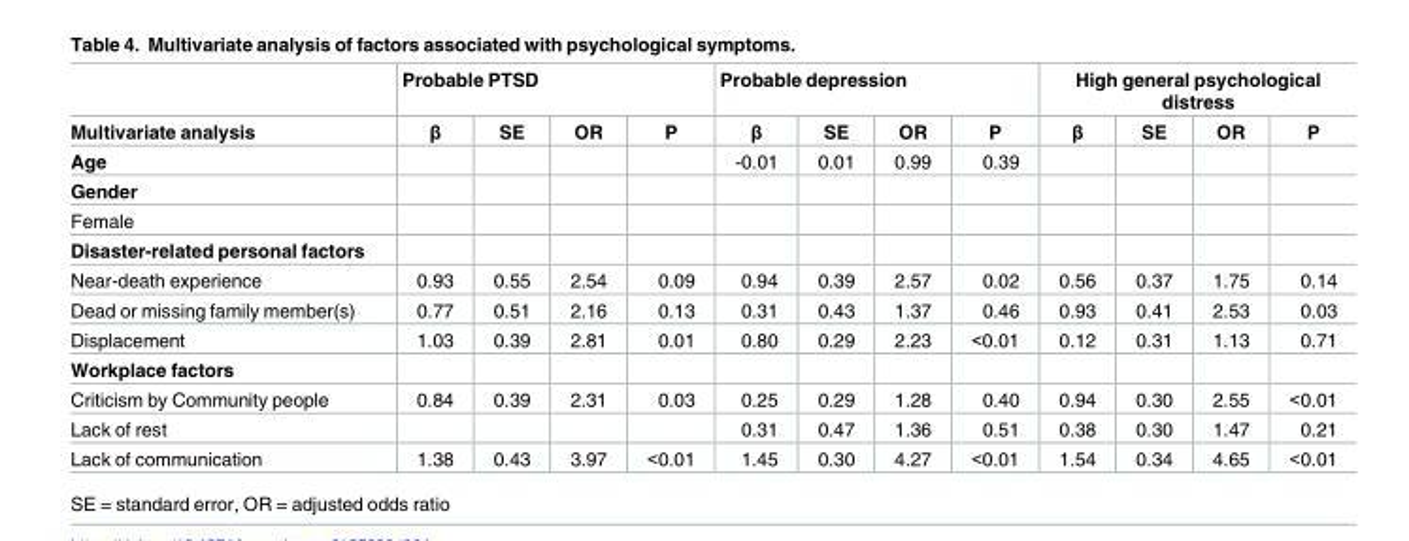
<table><thead><tr><td rowspan="2">Multivariate analysis</td><td colspan="4">Probable PTSD</td><td colspan="4">Probable depression</td><td colspan="4">High general psychological distress</td></tr><tr><td>β</td><td>SE</td><td>OR</td><td>P</td><td>β</td><td>SE</td><td>OR</td><td>P</td><td>β</td><td>SE</td><td>OR</td><td>P</td></tr></thead><tbody><tr><td>Age</td><td></td><td></td><td></td><td></td><td>-0.01</td><td>0.01</td><td>0.99</td><td>0.39</td><td></td><td></td><td></td><td></td></tr><tr><td colspan="13">Gender</td></tr><tr><td colspan="13">Female</td></tr><tr><td colspan="13">Disaster-related personal factors</td></tr><tr><td>Near-death experience</td><td>0.93</td><td>0.55</td><td>2.54</td><td>0.09</td><td>0.94</td><td>0.39</td><td>2.57</td><td>0.02</td><td>0.56</td><td>0.37</td><td>1.75</td><td>0.14</td></tr><tr><td>Dead or missing family member(s)</td><td>0.77</td><td>0.51</td><td>2.16</td><td>0.13</td><td>0.31</td><td>0.43</td><td>1.37</td><td>0.46</td><td>0.93</td><td>0.41</td><td>2.53</td><td>0.03</td></tr><tr><td>Displacement</td><td>1.03</td><td>0.39</td><td>2.81</td><td>0.01</td><td>0.80</td><td>0.29</td><td>2.23</td><td>&lt;0.01</td><td>0.12</td><td>0.31</td><td>1.13</td><td>0.71</td></tr><tr><td colspan="13">Workplace factors</td></tr><tr><td>Criticism by Community people</td><td>0.84</td><td>0.39</td><td>2.31</td><td>0.03</td><td>0.25</td><td>0.29</td><td>1.28</td><td>0.40</td><td>0.94</td><td>0.30</td><td>2.55</td><td>&lt;0.01</td></tr><tr><td>Lack of rest</td><td></td><td></td><td></td><td></td><td>0.31</td><td>0.47</td><td>1.36</td><td>0.51</td><td>0.38</td><td>0.30</td><td>1.47</td><td>0.21</td></tr><tr><td>Lack of communication</td><td>1.38</td><td>0.43</td><td>3.97</td><td>&lt;0.01</td><td>1.45</td><td>0.30</td><td>4.27</td><td>&lt;0.01</td><td>1.54</td><td>0.34</td><td>4.65</td><td>&lt;0.01</td></tr></tbody></table>